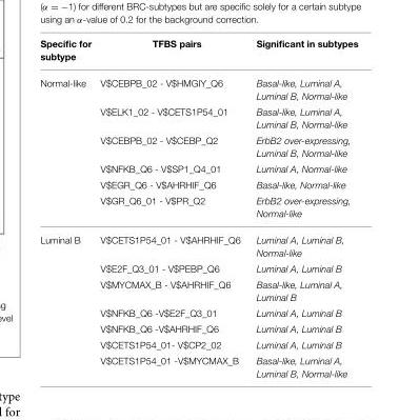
<table><thead><tr><td>Specific for subtype</td><td>TFBS pairs</td><td>Significant in subtypes</td></tr></thead><tbody><tr><td rowspan="6">Normal-like</td><td>V$CEBPB_02 - V$HMGIY_Q6</td><td>Basal-like, Luminal A, Luminal B, Normal-like</td></tr><tr><td>V$ELK1_02 - V$CETS1P54_01</td><td>Basal-like, Luminal A, Luminal B, Normal-like</td></tr><tr><td>V$CEBPB_02 - V$CEBP_Q2</td><td>ErbB2 over-expressing, Luminal B, Normal-like</td></tr><tr><td>V$NFKB_Q6 - V$SP1_Q4_01</td><td>Luminal A, Normal-like</td></tr><tr><td>V$EGR_Q6 - V$AHRHIF_Q6</td><td>Basal-like, Normal-like</td></tr><tr><td>V$GR_Q6_01 - V$PR_Q2</td><td>ErbB2 over-expressing, Normal-like</td></tr><tr><td rowspan="7">Luminal B</td><td>V$CETS1P54_01 - V$AHRHIF_Q6</td><td>Luminal A, Luminal B, Normal-like</td></tr><tr><td>V$E2F_Q3_01 - V$PEBP_Q6</td><td>Luminal A, Luminal B</td></tr><tr><td>V$MYCMAX_B - V$AHRHIF_Q6</td><td>Basal-like, Luminal A, Luminal B</td></tr><tr><td>V$NFKB_Q6 -V$E2F_Q3_01</td><td>Luminal A, Luminal B</td></tr><tr><td>V$NFKB_Q6 -V$AHRHIF_Q6</td><td>Luminal A, Luminal B</td></tr><tr><td>V$CETS1P54_01- V$CP2_02</td><td>Luminal A, Luminal B</td></tr><tr><td>V$CETS1P54_01 -V$MYCMAX_B</td><td>Basal-like, Luminal A, Luminal B, Normal-like</td></tr></tbody></table>